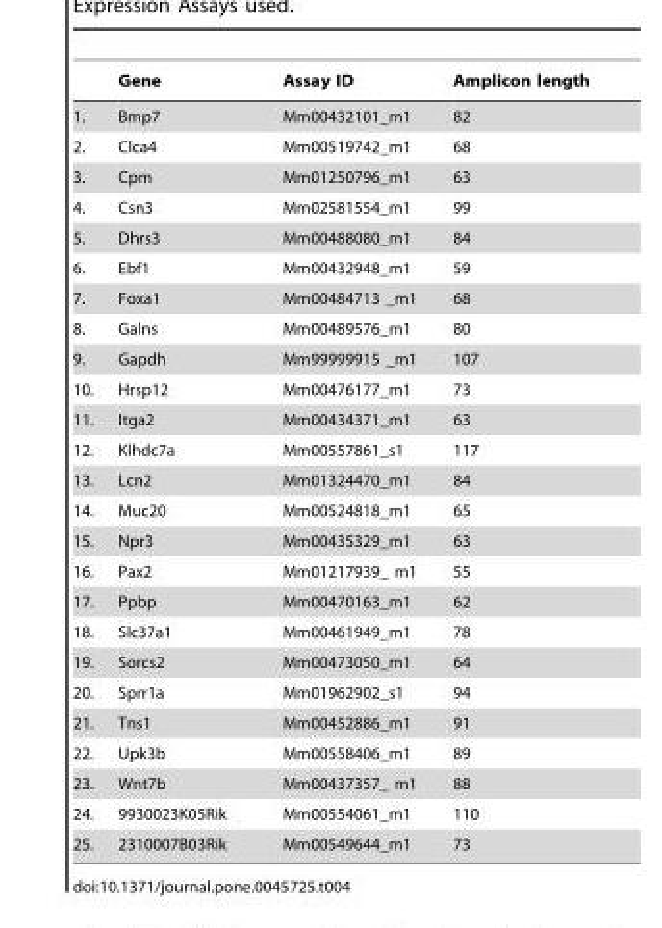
<table><thead><tr><td></td><td>Gene</td><td>Assay ID</td><td>Amplicon length</td></tr></thead><tbody><tr><td>1.</td><td>Bmp7</td><td>Mm00432101_m1</td><td>82</td></tr><tr><td>2.</td><td>Clca4</td><td>Mm00519742_m1</td><td>68</td></tr><tr><td>3.</td><td>Cpm</td><td>Mm01250796_m1</td><td>63</td></tr><tr><td>4.</td><td>Csn3</td><td>Mm02581554_m1</td><td>99</td></tr><tr><td>5.</td><td>Dhrs3</td><td>Mm00488080_m1</td><td>84</td></tr><tr><td>6.</td><td>Ebf1</td><td>Mm00432948_m1</td><td>59</td></tr><tr><td>7.</td><td>Foxa1</td><td>Mm00484713 _m1</td><td>68</td></tr><tr><td>8.</td><td>Galns</td><td>Mm00489576_m1</td><td>80</td></tr><tr><td>9.</td><td>Gapdh</td><td>Mm99999915 _m1</td><td>107</td></tr><tr><td>10.</td><td>Hrsp12</td><td>Mm00476177_m1</td><td>73</td></tr><tr><td>11.</td><td>Itga2</td><td>Mm00434371_m1</td><td>63</td></tr><tr><td>12.</td><td>Klhdc7a</td><td>Mm00557861_s1</td><td>117</td></tr><tr><td>13.</td><td>Lcn2</td><td>Mm01324470_m1</td><td>84</td></tr><tr><td>14.</td><td>Muc20</td><td>Mm00524818_m1</td><td>65</td></tr><tr><td>15.</td><td>Npr3</td><td>Mm00435329_m1</td><td>63</td></tr><tr><td>16.</td><td>Pax2</td><td>Mm01217939_ m1</td><td>55</td></tr><tr><td>17.</td><td>Ppbp</td><td>Mm00470163_m1</td><td>62</td></tr><tr><td>18.</td><td>Slc37a1</td><td>Mm00461949_m1</td><td>78</td></tr><tr><td>19.</td><td>Sorcs2</td><td>Mm00473050_m1</td><td>64</td></tr><tr><td>20.</td><td>Sprr1a</td><td>Mm01962902_s1</td><td>94</td></tr><tr><td>21.</td><td>Tns1</td><td>Mm00452886_m1</td><td>91</td></tr><tr><td>22.</td><td>Upk3b</td><td>Mm00558406_m1</td><td>89</td></tr><tr><td>23.</td><td>Wnt7b</td><td>Mm00437357_ m1</td><td>88</td></tr><tr><td>24.</td><td>9930023K05Rik</td><td>Mm00554061_m1</td><td>110</td></tr><tr><td>25.</td><td>2310007B03Rik</td><td>Mm00549644_m1</td><td>73</td></tr></tbody></table>